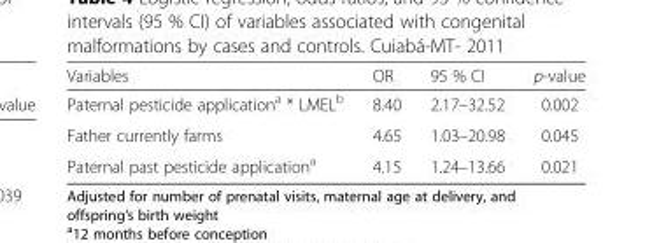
<table><thead><tr><td>Variables</td><td>OR</td><td>95 % CI</td><td>p-value</td></tr></thead><tbody><tr><td>Paternal pesticide application<sup>a</sup> * LMEL<sup>b</sup></td><td>8.40</td><td>2.17–32.52</td><td>0.002</td></tr><tr><td>Father currently farms</td><td>4.65</td><td>1.03–20.98</td><td>0.045</td></tr><tr><td>Paternal past pesticide application<sup>a</sup></td><td>4.15</td><td>1.24–13.66</td><td>0.021</td></tr></tbody></table>